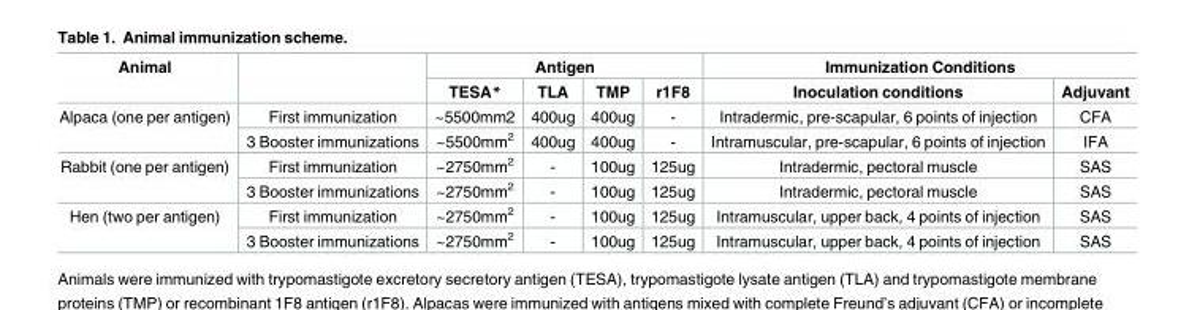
<table><thead><tr><td rowspan="2">Animal</td><td rowspan="2"></td><td colspan="4">Antigen</td><td colspan="2">Immunization Conditions</td></tr><tr><td>TESA*</td><td>TLA</td><td>TMP</td><td>r1F8</td><td>Inoculation conditions</td><td>Adjuvant</td></tr></thead><tbody><tr><td rowspan="2">Alpaca (one per antigen)</td><td>First immunization</td><td>~5500mm2</td><td>400ug</td><td>400ug</td><td>-</td><td>Intradermic, pre-scapular, 6 points of injection</td><td>CFA</td></tr><tr><td>3 Booster immunizations</td><td>~5500mm<sup>2</sup></td><td>400ug</td><td>400ug</td><td>-</td><td>Intramuscular, pre-scapular, 6 points of injection</td><td>IFA</td></tr><tr><td rowspan="2">Rabbit (one per antigen)</td><td>First immunization</td><td>~2750mm<sup>2</sup></td><td>-</td><td>100ug</td><td>125ug</td><td>Intradermic, pectoral muscle</td><td>SAS</td></tr><tr><td>3 Booster immunizations</td><td>~2750mm<sup>2</sup></td><td>-</td><td>100ug</td><td>125ug</td><td>Intradermic, pectoral muscle</td><td>SAS</td></tr><tr><td rowspan="2">Hen (two per antigen)</td><td>First immunization</td><td>~2750mm<sup>2</sup></td><td>-</td><td>100ug</td><td>125ug</td><td>Intramuscular, upper back, 4 points of injection</td><td>SAS</td></tr><tr><td>3 Booster immunizations</td><td>~2750mm<sup>2</sup></td><td>-</td><td>100ug</td><td>125ug</td><td>Intramuscular, upper back, 4 points of injection</td><td>SAS</td></tr></tbody></table>